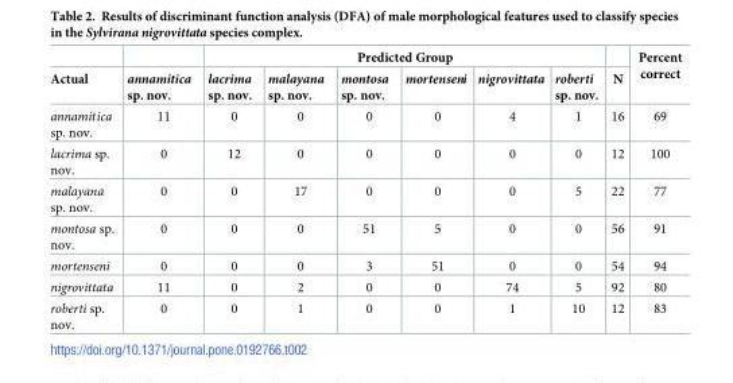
<table><thead><tr><td rowspan="2">Actual</td><td rowspan="2">annamitica sp. nov.</td><td colspan="6">Predicted Group</td><td rowspan="2">N</td><td rowspan="2">Percent correct</td></tr><tr><td>lacrima sp. nov.</td><td>malayana sp. nov.</td><td>montosa sp. nov.</td><td>mortenseni</td><td>nigrovittata</td><td>roberti sp. nov.</td></tr></thead><tbody><tr><td>annamitica sp. nov.</td><td>11</td><td>0</td><td>0</td><td>0</td><td>0</td><td>4</td><td>1</td><td>16</td><td>69</td></tr><tr><td>lacrima sp. nov.</td><td>0</td><td>12</td><td>0</td><td>0</td><td>0</td><td>0</td><td>0</td><td>12</td><td>100</td></tr><tr><td>malayana sp. nov.</td><td>0</td><td>0</td><td>17</td><td>0</td><td>0</td><td>0</td><td>5</td><td>22</td><td>77</td></tr><tr><td>montosa sp. nov.</td><td>0</td><td>0</td><td>0</td><td>51</td><td>5</td><td>0</td><td>0</td><td>56</td><td>91</td></tr><tr><td>mortenseni</td><td>0</td><td>0</td><td>0</td><td>3</td><td>51</td><td>0</td><td>0</td><td>54</td><td>94</td></tr><tr><td>nigrovittata</td><td>11</td><td>0</td><td>2</td><td>0</td><td>0</td><td>74</td><td>5</td><td>92</td><td>80</td></tr><tr><td>roberti sp. nov.</td><td>0</td><td>0</td><td>1</td><td>0</td><td>0</td><td>1</td><td>10</td><td>12</td><td>83</td></tr></tbody></table>